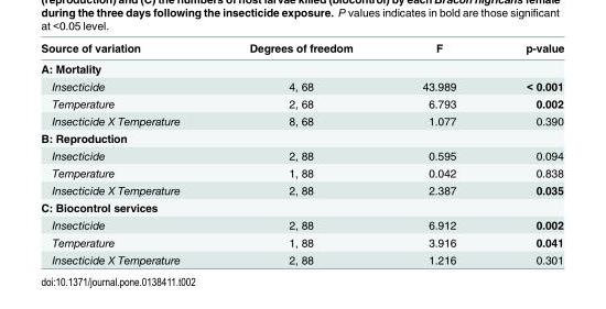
<table><thead><tr><td>Source of variation</td><td>Degrees of freedom</td><td>F</td><td>p-value</td></tr></thead><tbody><tr><td colspan="4">A: Mortality</td></tr><tr><td>Insecticide</td><td>4, 68</td><td>43.989</td><td>&lt; 0.001</td></tr><tr><td>Temperature</td><td>2, 68</td><td>6.793</td><td>0.002</td></tr><tr><td>Insecticide X Temperature</td><td>8, 68</td><td>1.077</td><td>0.390</td></tr><tr><td colspan="4">B: Reproduction</td></tr><tr><td>Insecticide</td><td>2, 88</td><td>0.595</td><td>0.094</td></tr><tr><td>Temperature</td><td>1, 88</td><td>0.042</td><td>0.838</td></tr><tr><td>Insecticide X Temperature</td><td>2, 88</td><td>2.387</td><td>0.035</td></tr><tr><td colspan="4">C: Biocontrol services</td></tr><tr><td>Insecticide</td><td>2, 88</td><td>6.912</td><td>0.002</td></tr><tr><td>Temperature</td><td>1, 88</td><td>3.916</td><td>0.041</td></tr><tr><td>Insecticide X Temperature</td><td>2, 88</td><td>1.216</td><td>0.301</td></tr></tbody></table>